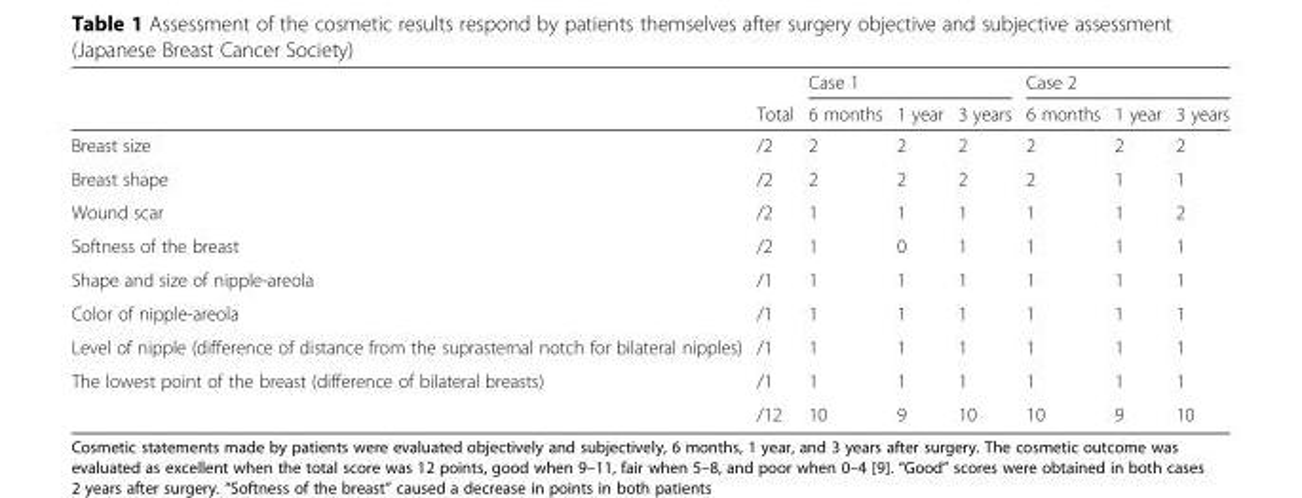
<table><thead><tr><td rowspan="2"></td><td rowspan="2">Total</td><td colspan="3">Case 1</td><td colspan="3">Case 2</td></tr><tr><td>6 months</td><td>1 year</td><td>3 years</td><td>6 months</td><td>1 year</td><td>3 years</td></tr></thead><tbody><tr><td>Breast size</td><td>/2</td><td>2</td><td>2</td><td>2</td><td>2</td><td>2</td><td>2</td></tr><tr><td>Breast shape</td><td>/2</td><td>2</td><td>2</td><td>2</td><td>2</td><td>1</td><td>1</td></tr><tr><td>Wound scar</td><td>/2</td><td>1</td><td>1</td><td>1</td><td>1</td><td>1</td><td>2</td></tr><tr><td>Softness of the breast</td><td>/2</td><td>1</td><td>0</td><td>1</td><td>1</td><td>1</td><td>1</td></tr><tr><td>Shape and size of nipple-areola</td><td>/1</td><td>1</td><td>1</td><td>1</td><td>1</td><td>1</td><td>1</td></tr><tr><td>Color of nipple-areola</td><td>/1</td><td>1</td><td>1</td><td>1</td><td>1</td><td>1</td><td>1</td></tr><tr><td>Level of nipple (difference of distance from the suprasternal notch for bilateral nipples)</td><td>/1</td><td>1</td><td>1</td><td>1</td><td>1</td><td>1</td><td>1</td></tr><tr><td rowspan="2">The lowest point of the breast (difference of bilateral breasts)</td><td>/1</td><td>1</td><td>1</td><td>1</td><td>1</td><td>1</td><td>1</td></tr><tr><td>/12</td><td>10</td><td>9</td><td>10</td><td>10</td><td>9</td><td>10</td></tr></tbody></table>